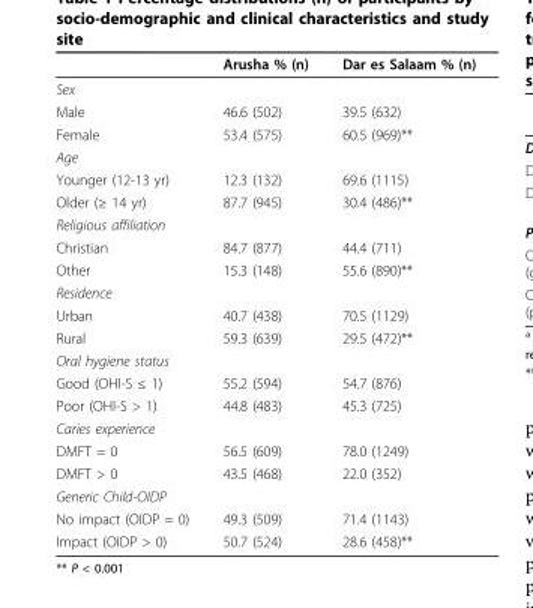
<table><thead><tr><td></td><td>Arusha % (n)</td><td>Dar es Salaam % (n)</td></tr></thead><tbody><tr><td colspan="3">Sex</td></tr><tr><td>Male</td><td>46.6 (502)</td><td>39.5 (632)</td></tr><tr><td>Female</td><td>53.4 (575)</td><td>60.5 (969)**</td></tr><tr><td colspan="3">Age</td></tr><tr><td>Younger (12-13 yr)</td><td>12.3 (132)</td><td>69.6 (1115)</td></tr><tr><td>Older (≥ 14 yr)</td><td>87.7 (945)</td><td>30.4 (486)**</td></tr><tr><td colspan="3">Religious affiliation</td></tr><tr><td>Christian</td><td>84.7 (877)</td><td>44.4 (711)</td></tr><tr><td>Other</td><td>15.3 (148)</td><td>55.6 (890)**</td></tr><tr><td colspan="3">Residence</td></tr><tr><td>Urban</td><td>40.7 (438)</td><td>70.5 (1129)</td></tr><tr><td>Rural</td><td>59.3 (639)</td><td>29.5 (472)**</td></tr><tr><td colspan="3">Oral hygiene status</td></tr><tr><td>Good (OHI-S ≤ 1)</td><td>55.2 (594)</td><td>54.7 (876)</td></tr><tr><td>Poor (OHI-S &gt; 1)</td><td>44.8 (483)</td><td>45.3 (725)</td></tr><tr><td colspan="3">Caries experience</td></tr><tr><td>DMFT = 0</td><td>56.5 (609)</td><td>78.0 (1249)</td></tr><tr><td>DMFT &gt; 0</td><td>43.5 (468)</td><td>22.0 (352)</td></tr><tr><td colspan="3">Generic Child-OIDP</td></tr><tr><td>No impact (OIDP = 0)</td><td>49.3 (509)</td><td>71.4 (1143)</td></tr><tr><td>Impact (OIDP &gt; 0)</td><td>50.7 (524)</td><td>28.6 (458)**</td></tr></tbody></table>